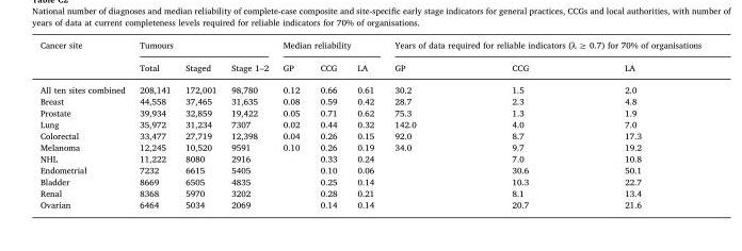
<table><thead><tr><td rowspan="2">Cancer site</td><td colspan="3">Tumours</td><td colspan="3">Median reliability</td><td colspan="3">Years of data required for reliable indicators (λ ≥ 0.7) for 70% of organisations</td></tr><tr><td>Total</td><td>Staged</td><td>Stage 1–2</td><td>GP</td><td>CCG</td><td>LA</td><td>GP</td><td>CCG</td><td>LA</td></tr></thead><tbody><tr><td>All ten sites combined</td><td>208,141</td><td>172,001</td><td>98,780</td><td>0.12</td><td>0.66</td><td>0.61</td><td>30.2</td><td>1.5</td><td>2.0</td></tr><tr><td>Breast</td><td>44,558</td><td>37,465</td><td>31,635</td><td>0.08</td><td>0.59</td><td>0.42</td><td>28.7</td><td>2.3</td><td>4.8</td></tr><tr><td>Prostate</td><td>39,934</td><td>32,859</td><td>19,422</td><td>0.05</td><td>0.71</td><td>0.62</td><td>75.3</td><td>1.3</td><td>1.9</td></tr><tr><td>Lung</td><td>35,972</td><td>31,234</td><td>7307</td><td>0.02</td><td>0.44</td><td>0.32</td><td>142.0</td><td>4.0</td><td>7.0</td></tr><tr><td>Colorectal</td><td>33,477</td><td>27,719</td><td>12,398</td><td>0.04</td><td>0.26</td><td>0.15</td><td>92.0</td><td>8.7</td><td>17.3</td></tr><tr><td>Melanoma</td><td>12,245</td><td>10,520</td><td>9591</td><td>0.10</td><td>0.26</td><td>0.19</td><td>34.0</td><td>9.7</td><td>19.2</td></tr><tr><td>NHL</td><td>11,222</td><td>8080</td><td>2916</td><td></td><td>0.33</td><td>0.24</td><td></td><td>7.0</td><td>10.8</td></tr><tr><td>Endometrial</td><td>7232</td><td>6615</td><td>5405</td><td></td><td>0.10</td><td>0.06</td><td></td><td>30.6</td><td>50.1</td></tr><tr><td>Bladder</td><td>8669</td><td>6505</td><td>4835</td><td></td><td>0.25</td><td>0.14</td><td></td><td>10.3</td><td>22.7</td></tr><tr><td>Renal</td><td>8368</td><td>5970</td><td>3202</td><td></td><td>0.28</td><td>0.21</td><td></td><td>8.1</td><td>13.4</td></tr><tr><td>Ovarian</td><td>6464</td><td>5034</td><td>2069</td><td></td><td>0.14</td><td>0.14</td><td></td><td>20.7</td><td>21.6</td></tr></tbody></table>